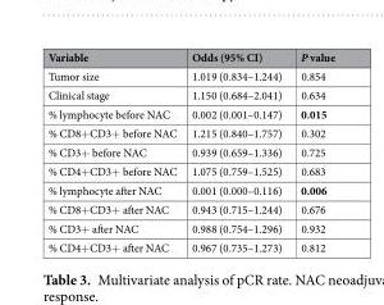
<table><thead><tr><td>Variable</td><td>Odds (95% CI)</td><td>P value</td></tr></thead><tbody><tr><td>Tumor size</td><td>1.019 (0.834–1.244)</td><td>0.854</td></tr><tr><td>Clinical stage</td><td>1.150 (0.684–2.041)</td><td>0.634</td></tr><tr><td>% lymphocyte before NAC</td><td>0.002 (0.001–0.147)</td><td>0.015</td></tr><tr><td>% CD8+CD3+ before NAC</td><td>1.215 (0.840–1.757)</td><td>0.302</td></tr><tr><td>% CD3+ before NAC</td><td>0.939 (0.659–1.336)</td><td>0.725</td></tr><tr><td>% CD4+CD3+ before NAC</td><td>1.075 (0.759–1.525)</td><td>0.683</td></tr><tr><td>% lymphocyte after NAC</td><td>0.001 (0.000–0.116)</td><td>0.006</td></tr><tr><td>% CD8+CD3+ after NAC</td><td>0.943 (0.715–1.244)</td><td>0.676</td></tr><tr><td>% CD3+ after NAC</td><td>0.988 (0.754–1.296)</td><td>0.932</td></tr><tr><td>% CD4+CD3+ after NAC</td><td>0.967 (0.735–1.273)</td><td>0.812</td></tr></tbody></table>